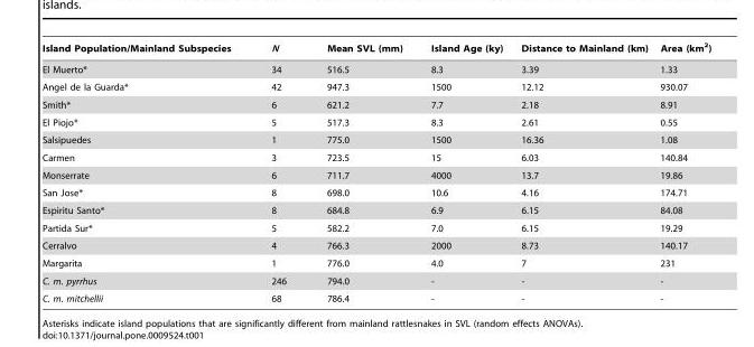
<table><thead><tr><td>Island Population/Mainland Subspecies</td><td>N</td><td>Mean SVL (mm)</td><td>Island Age (ky)</td><td>Distance to Mainland (km)</td><td>Area (km<sup>2</sup>)</td></tr></thead><tbody><tr><td>El Muerto*</td><td>34</td><td>516.5</td><td>8.3</td><td>3.39</td><td>1.33</td></tr><tr><td>Angel de la Guarda*</td><td>42</td><td>947.3</td><td>1500</td><td>12.12</td><td>930.07</td></tr><tr><td>Smith*</td><td>6</td><td>621.2</td><td>7.7</td><td>2.18</td><td>8.91</td></tr><tr><td>El Piojo*</td><td>5</td><td>517.3</td><td>8.3</td><td>2.61</td><td>0.55</td></tr><tr><td>Salsipuedes</td><td>1</td><td>775.0</td><td>1500</td><td>16.36</td><td>1.08</td></tr><tr><td>Carmen</td><td>3</td><td>723.5</td><td>15</td><td>6.03</td><td>140.84</td></tr><tr><td>Monserrate</td><td>6</td><td>711.7</td><td>4000</td><td>13.7</td><td>19.86</td></tr><tr><td>San Jose*</td><td>8</td><td>698.0</td><td>10.6</td><td>4.16</td><td>174.71</td></tr><tr><td>Espiritu Santo*</td><td>8</td><td>684.8</td><td>6.9</td><td>6.15</td><td>84.08</td></tr><tr><td>Partida Sur*</td><td>5</td><td>582.2</td><td>7.0</td><td>6.15</td><td>19.29</td></tr><tr><td>Cerralvo</td><td>4</td><td>766.3</td><td>2000</td><td>8.73</td><td>140.17</td></tr><tr><td>Margarita</td><td>1</td><td>776.0</td><td>4.0</td><td>7</td><td>231</td></tr><tr><td>C. m. pyrrhus</td><td>246</td><td>794.0</td><td>-</td><td>-</td><td>-</td></tr><tr><td>C. m. mitchellii</td><td>68</td><td>786.4</td><td>-</td><td>-</td><td>-</td></tr></tbody></table>